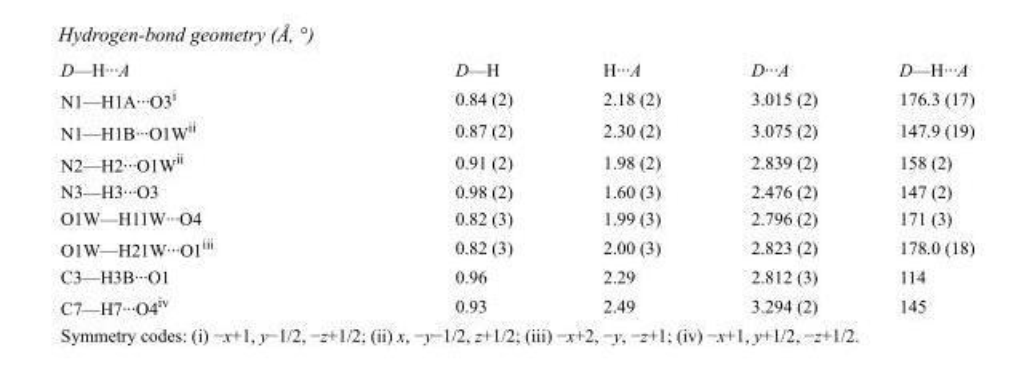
<table><tbody><tr><td>D—H···A</td><td>D—H</td><td>H···A</td><td>D···A</td><td>D—H···A</td></tr><tr><td>N1—H1A···O3<sup>i</sup></td><td>0.84 (2)</td><td>2.18 (2)</td><td>3.015 (2)</td><td>176.3 (17)</td></tr><tr><td>N1—H1B···O1W<sup>ii</sup></td><td>0.87 (2)</td><td>2.30 (2)</td><td>3.075 (2)</td><td>147.9 (19)</td></tr><tr><td>N2—H2···O1W<sup>ii</sup></td><td>0.91 (2)</td><td>1.98 (2)</td><td>2.839 (2)</td><td>158 (2)</td></tr><tr><td>N3—H3···O3</td><td>0.98 (2)</td><td>1.60 (3)</td><td>2.476 (2)</td><td>147 (2)</td></tr><tr><td>O1W—H11W···O4</td><td>0.82 (3)</td><td>1.99 (3)</td><td>2.796 (2)</td><td>171 (3)</td></tr><tr><td>O1W—H21W···O1<sup>iii</sup></td><td>0.82 (3)</td><td>2.00 (3)</td><td>2.823 (2)</td><td>178.0 (18)</td></tr><tr><td>C3—H3B···O1</td><td>0.96</td><td>2.29</td><td>2.812 (3)</td><td>114</td></tr><tr><td>C7—H7···O4<sup>iv</sup></td><td>0.93</td><td>2.49</td><td>3.294 (2)</td><td>145</td></tr></tbody></table>